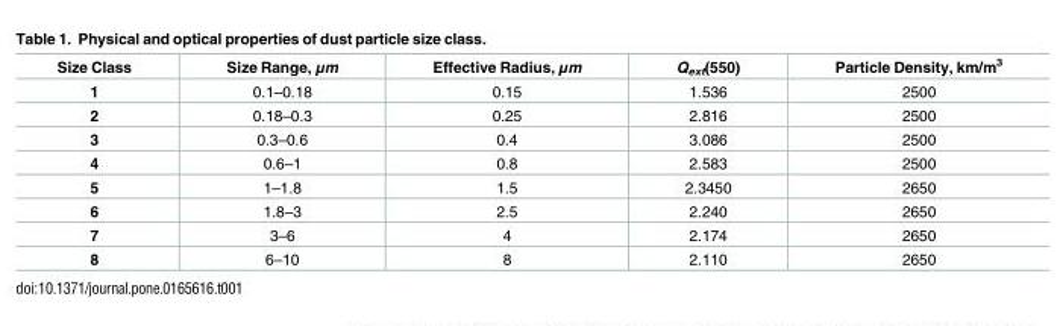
<table><thead><tr><td>Size Class</td><td>Size Range, μm</td><td>Effective Radius, μm</td><td>Q<sub>ext</sub>(550)</td><td>Particle Density, km/m<sup>3</sup></td></tr></thead><tbody><tr><td>1</td><td>0.1–0.18</td><td>0.15</td><td>1.536</td><td>2500</td></tr><tr><td>2</td><td>0.18–0.3</td><td>0.25</td><td>2.816</td><td>2500</td></tr><tr><td>3</td><td>0.3–0.6</td><td>0.4</td><td>3.086</td><td>2500</td></tr><tr><td>4</td><td>0.6–1</td><td>0.8</td><td>2.583</td><td>2500</td></tr><tr><td>5</td><td>1–1.8</td><td>1.5</td><td>2.3450</td><td>2650</td></tr><tr><td>6</td><td>1.8–3</td><td>2.5</td><td>2.240</td><td>2650</td></tr><tr><td>7</td><td>3–6</td><td>4</td><td>2.174</td><td>2650</td></tr><tr><td>8</td><td>6–10</td><td>8</td><td>2.110</td><td>2650</td></tr></tbody></table>